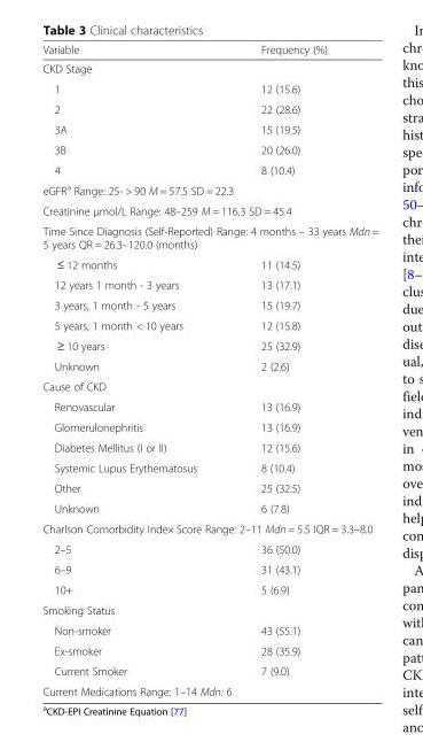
<table><thead><tr><td>Variable</td><td>Frequency (%)</td></tr></thead><tbody><tr><td colspan="2">CKD Stage</td></tr><tr><td>1</td><td>12 (15.6)</td></tr><tr><td>2</td><td>22 (28.6)</td></tr><tr><td>3A</td><td>15 (19.5)</td></tr><tr><td>3B</td><td>20 (26.0)</td></tr><tr><td>4</td><td>8 (10.4)</td></tr><tr><td colspan="2">eGFR<sup>a</sup> Range: 25- &gt; 90 M = 57.5 SD = 22.3</td></tr><tr><td colspan="2">Creatinine μmol/L Range: 48–259 M = 116.3 SD = 45.4</td></tr><tr><td colspan="2">Time Since Diagnosis (Self-Reported) Range: 4 months – 33 years Mdn = 5 years QR = 26.3–120.0 (months)</td></tr><tr><td>≤ 12 months</td><td>11 (14.5)</td></tr><tr><td>12 years 1 month - 3 years</td><td>13 (17.1)</td></tr><tr><td>3 years, 1 month - 5 years</td><td>15 (19.7)</td></tr><tr><td>5 years, 1 month &lt; 10 years</td><td>12 (15.8)</td></tr><tr><td>≥ 10 years</td><td>25 (32.9)</td></tr><tr><td>Unknown</td><td>2 (2.6)</td></tr><tr><td colspan="2">Cause of CKD</td></tr><tr><td>Renovascular</td><td>13 (16.9)</td></tr><tr><td>Glomerulonephritis</td><td>13 (16.9)</td></tr><tr><td>Diabetes Mellitus (I or II)</td><td>12 (15.6)</td></tr><tr><td>Systemic Lupus Erythematosus</td><td>8 (10.4)</td></tr><tr><td>Other</td><td>25 (32.5)</td></tr><tr><td>Unknown</td><td>6 (7.8)</td></tr><tr><td colspan="2">Charlson Comorbidity Index Score Range: 2–11 Mdn = 5.5 IQR = 3.3–8.0</td></tr><tr><td>2–5</td><td>36 (50.0)</td></tr><tr><td>6–9</td><td>31 (43.1)</td></tr><tr><td>10+</td><td>5 (6.9)</td></tr><tr><td colspan="2">Smoking Status</td></tr><tr><td>Non-smoker</td><td>43 (55.1)</td></tr><tr><td>Ex-smoker</td><td>28 (35.9)</td></tr><tr><td>Current Smoker</td><td>7 (9.0)</td></tr><tr><td colspan="2">Current Medications Range: 1–14 Mdn: 6</td></tr></tbody></table>